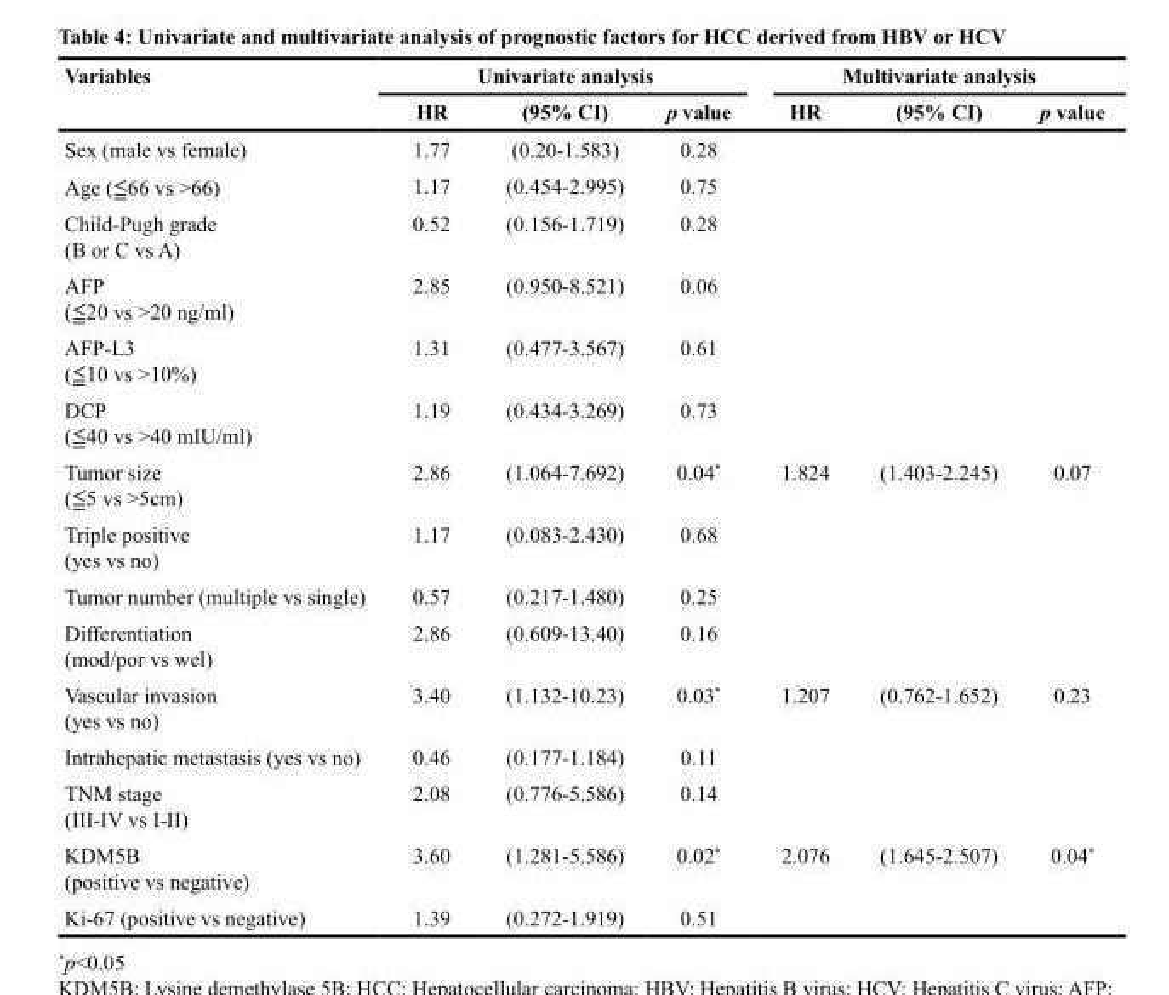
<table><thead><tr><td rowspan="2">Variables</td><td colspan="3">Univariate analysis</td><td colspan="3">Multivariate analysis</td></tr><tr><td>HR</td><td>(95% CI)</td><td>p value</td><td>HR</td><td>(95% CI)</td><td>p value</td></tr></thead><tbody><tr><td>Sex (male vs female)</td><td>1.77</td><td>(0.20-1.583)</td><td>0.28</td><td></td><td></td><td></td></tr><tr><td>Age (≦66 vs &gt;66)</td><td>1.17</td><td>(0.454-2.995)</td><td>0.75</td><td></td><td></td><td></td></tr><tr><td>Child-Pugh grade (B or C vs A)</td><td>0.52</td><td>(0.156-1.719)</td><td>0.28</td><td></td><td></td><td></td></tr><tr><td>AFP (≦20 vs &gt;20 ng/ml)</td><td>2.85</td><td>(0.950-8.521)</td><td>0.06</td><td></td><td></td><td></td></tr><tr><td>AFP-L3 (≦10 vs &gt;10%)</td><td>1.31</td><td>(0.477-3.567)</td><td>0.61</td><td></td><td></td><td></td></tr><tr><td>DCP (≦40 vs &gt;40 mIU/ml)</td><td>1.19</td><td>(0.434-3.269)</td><td>0.73</td><td></td><td></td><td></td></tr><tr><td>Tumor size (≦5 vs &gt;5cm)</td><td>2.86</td><td>(1.064-7.692)</td><td>0.04*</td><td>1.824</td><td>(1.403-2.245)</td><td>0.07</td></tr><tr><td>Triple positive (yes vs no)</td><td>1.17</td><td>(0.083-2.430)</td><td>0.68</td><td></td><td></td><td></td></tr><tr><td>Tumor number (multiple vs single)</td><td>0.57</td><td>(0.217-1.480)</td><td>0.25</td><td></td><td></td><td></td></tr><tr><td>Differentiation (mod/por vs wel)</td><td>2.86</td><td>(0.609-13.40)</td><td>0.16</td><td></td><td></td><td></td></tr><tr><td>Vascular invasion (yes vs no)</td><td>3.40</td><td>(1.132-10.23)</td><td>0.03*</td><td>1.207</td><td>(0.762-1.652)</td><td>0.23</td></tr><tr><td>Intrahepatic metastasis (yes vs no)</td><td>0.46</td><td>(0.177-1.184)</td><td>0.11</td><td></td><td></td><td></td></tr><tr><td>TNM stage (III-IV vs I-II)</td><td>2.08</td><td>(0.776-5.586)</td><td>0.14</td><td></td><td></td><td></td></tr><tr><td>KDM5B (positive vs negative)</td><td>3.60</td><td>(1.281-5.586)</td><td>0.02*</td><td>2.076</td><td>(1.645-2.507)</td><td>0.04*</td></tr><tr><td>Ki-67 (positive vs negative)</td><td>1.39</td><td>(0.272-1.919)</td><td>0.51</td><td></td><td></td><td></td></tr></tbody></table>